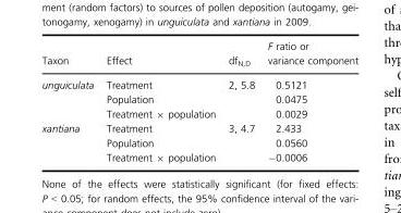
<table><thead><tr><td>Taxon</td><td>Effect</td><td>df<sub>N,D</sub></td><td>F ratio or variance component</td></tr></thead><tbody><tr><td rowspan="3">unguiculata</td><td>Treatment</td><td rowspan="3">2, 5.8</td><td>0.5121</td></tr><tr><td>Population</td><td>0.0475</td></tr><tr><td>Treatment × population</td><td>0.0029</td></tr><tr><td rowspan="3">xantiana</td><td>Treatment</td><td rowspan="3">3, 4.7</td><td>2.433</td></tr><tr><td>Population</td><td>0.0560</td></tr><tr><td>Treatment × population</td><td>−0.0006</td></tr></tbody></table>